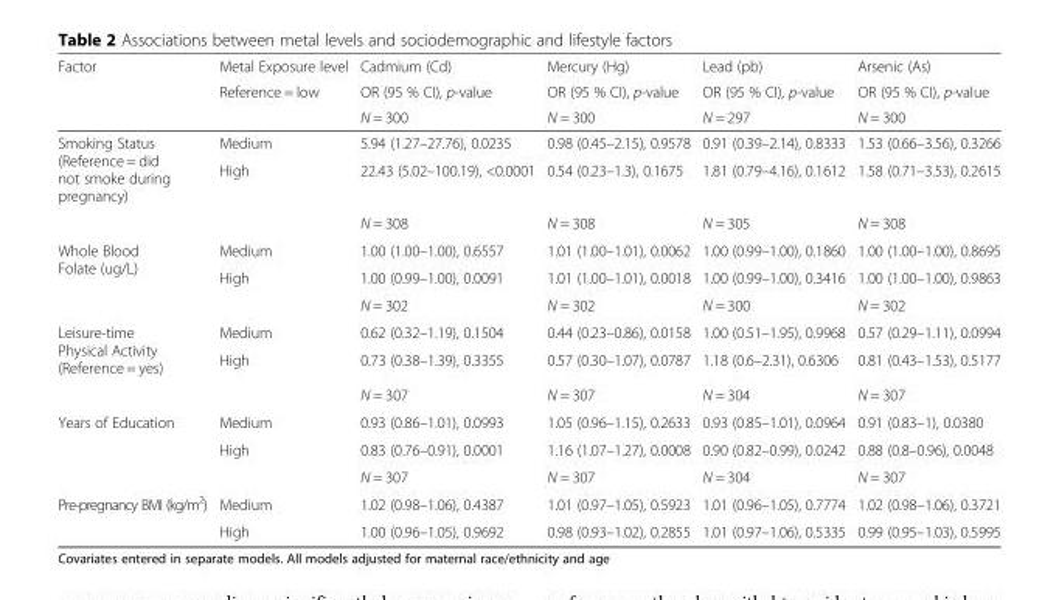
<table><thead><tr><td rowspan="3">Factor</td><td rowspan="3">Metal Exposure level Reference = low</td><td rowspan="3">Cadmium (Cd) OR (95 % CI), p-value N = 300</td><td rowspan="3">Mercury (Hg) OR (95 % CI), p-value N = 300</td><td rowspan="3">Lead (pb) OR (95 % CI), p-value N = 297</td><td rowspan="3">Arsenic (As) OR (95 % CI), p-value N = 300</td></tr><tr></tr><tr></tr></thead><tbody><tr><td rowspan="3">Smoking Status (Reference = did not smoke during pregnancy)</td><td>Medium</td><td>5.94 (1.27–27.76), 0.0235</td><td>0.98 (0.45–2.15), 0.9578</td><td>0.91 (0.39–2.14), 0.8333</td><td>1.53 (0.66–3.56), 0.3266</td></tr><tr><td>High</td><td>22.43 (5.02–100.19), &lt;0.0001</td><td>0.54 (0.23–1.3), 0.1675</td><td>1.81 (0.79–4.16), 0.1612</td><td>1.58 (0.71–3.53), 0.2615</td></tr><tr><td></td><td>N = 308</td><td>N = 308</td><td>N = 305</td><td>N = 308</td></tr><tr><td rowspan="3">Whole Blood Folate (ug/L)</td><td>Medium</td><td>1.00 (1.00–1.00), 0.6557</td><td>1.01 (1.00–1.01), 0.0062</td><td>1.00 (0.99–1.00), 0.1860</td><td>1.00 (1.00–1.00), 0.8695</td></tr><tr><td>High</td><td>1.00 (0.99–1.00), 0.0091</td><td>1.01 (1.00–1.01), 0.0018</td><td>1.00 (0.99–1.00), 0.3416</td><td>1.00 (1.00–1.00), 0.9863</td></tr><tr><td></td><td>N = 302</td><td>N = 302</td><td>N = 300</td><td>N = 302</td></tr><tr><td rowspan="3">Leisure-time Physical Activity (Reference = yes)</td><td>Medium</td><td>0.62 (0.32–1.19), 0.1504</td><td>0.44 (0.23–0.86), 0.0158</td><td>1.00 (0.51–1.95), 0.9968</td><td>0.57 (0.29–1.11), 0.0994</td></tr><tr><td>High</td><td>0.73 (0.38–1.39), 0.3355</td><td>0.57 (0.30–1.07), 0.0787</td><td>1.18 (0.6–2.31), 0.6306</td><td>0.81 (0.43–1.53), 0.5177</td></tr><tr><td></td><td>N = 307</td><td>N = 307</td><td>N = 304</td><td>N = 307</td></tr><tr><td rowspan="3">Years of Education</td><td>Medium</td><td>0.93 (0.86–1.01), 0.0993</td><td>1.05 (0.96–1.15), 0.2633</td><td>0.93 (0.85–1.01), 0.0964</td><td>0.91 (0.83–1), 0.0380</td></tr><tr><td>High</td><td>0.83 (0.76–0.91), 0.0001</td><td>1.16 (1.07–1.27), 0.0008</td><td>0.90 (0.82–0.99), 0.0242</td><td>0.88 (0.8–0.96), 0.0048</td></tr><tr><td></td><td>N = 307</td><td>N = 307</td><td>N = 304</td><td>N = 307</td></tr><tr><td rowspan="2">Pre-pregnancy BMI (kg/m<sup>2</sup>)</td><td>Medium</td><td>1.02 (0.98–1.06), 0.4387</td><td>1.01 (0.97–1.05), 0.5923</td><td>1.01 (0.96–1.05), 0.7774</td><td>1.02 (0.98–1.06), 0.3721</td></tr><tr><td>High</td><td>1.00 (0.96–1.05), 0.9692</td><td>0.98 (0.93–1.02), 0.2855</td><td>1.01 (0.97–1.06), 0.5335</td><td>0.99 (0.95–1.03), 0.5995</td></tr></tbody></table>